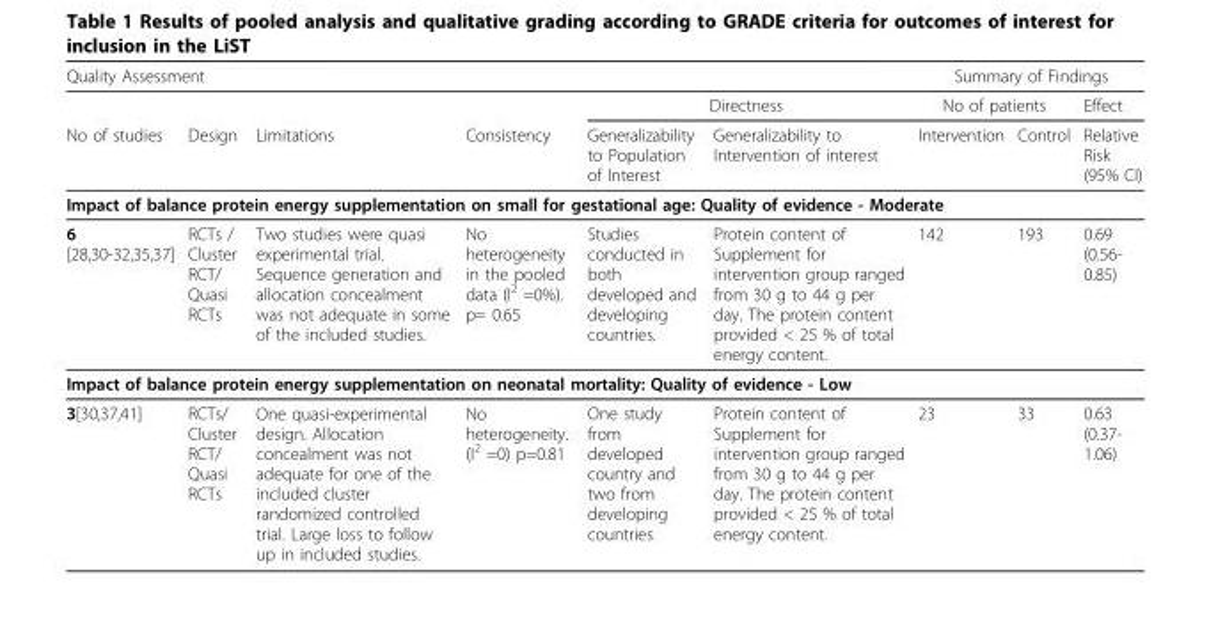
<table><thead><tr><td colspan="6">Quality Assessment</td><td colspan="3">Summary of Findings</td></tr><tr><td rowspan="2">No of studies</td><td rowspan="2">Design</td><td rowspan="2">Limitations</td><td rowspan="2">Consistency</td><td colspan="2">Directness</td><td colspan="2">No of patients</td><td rowspan="2">Effect Relative Risk (95% CI)</td></tr><tr><td>Generalizability to Population of Interest</td><td>Generalizability to Intervention of interest</td><td>Intervention</td><td>Control</td></tr></thead><tbody><tr><td colspan="9">Impact of balance protein energy supplementation on small for gestational age: Quality of evidence - Moderate</td></tr><tr><td>6 [28,30-32,35,37]</td><td>RCTs / Cluster RCT/ Quasi RCTs</td><td>Two studies were quasi experimental trial. Sequence generation and allocation concealment was not adequate in some of the included studies.</td><td>No heterogeneity in the pooled data (I<sup>2</sup> =0%). p= 0.65</td><td>Studies conducted in both developed and developing countries.</td><td>Protein content of Supplement for intervention group ranged from 30 g to 44 g per day. The protein content provided &lt; 25 % of total energy content.</td><td>142</td><td>193</td><td>0.69 (0.56- 0.85)</td></tr><tr><td colspan="9">Impact of balance protein energy supplementation on neonatal mortality: Quality of evidence - Low</td></tr><tr><td>3[30,37,41]</td><td>RCTs/ Cluster RCT/ Quasi RCTs</td><td>One quasi-experimental design. Allocation concealment was not adequate for one of the included cluster randomized controlled trial. Large loss to follow up in included studies.</td><td>No heterogeneity. (I<sup>2</sup> =0) p=0.81</td><td>One study from developed country and two from developing countries</td><td>Protein content of Supplement for intervention group ranged from 30 g to 44 g per day. The protein content provided &lt; 25 % of total energy content.</td><td>23</td><td>33</td><td>0.63 (0.37- 1.06)</td></tr></tbody></table>